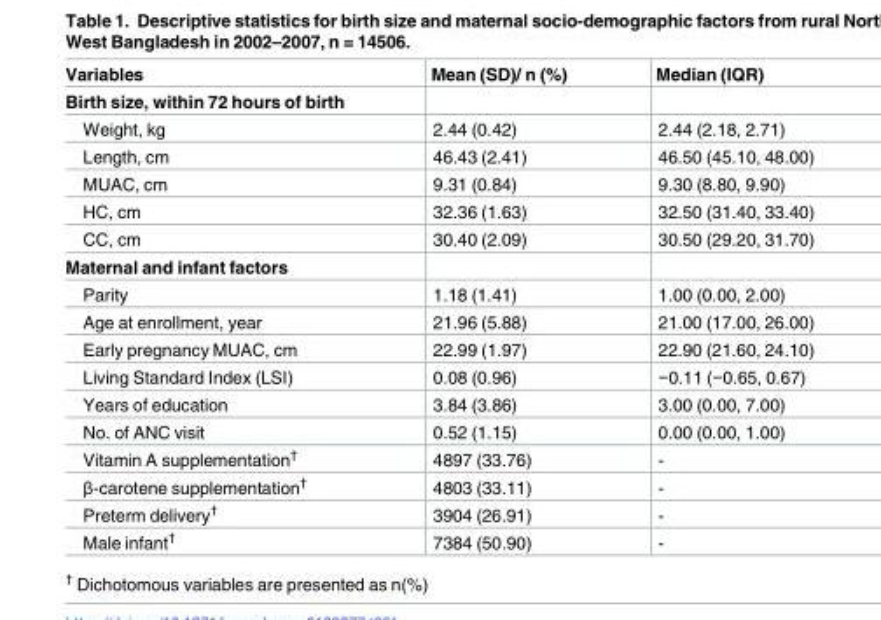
<table><thead><tr><td>Variables</td><td>Mean (SD)/ n (%)</td><td>Median (IQR)</td></tr></thead><tbody><tr><td colspan="3">Birth size, within 72 hours of birth</td></tr><tr><td>Weight, kg</td><td>2.44 (0.42)</td><td>2.44 (2.18, 2.71)</td></tr><tr><td>Length, cm</td><td>46.43 (2.41)</td><td>46.50 (45.10, 48.00)</td></tr><tr><td>MUAC, cm</td><td>9.31 (0.84)</td><td>9.30 (8.80, 9.90)</td></tr><tr><td>HC, cm</td><td>32.36 (1.63)</td><td>32.50 (31.40, 33.40)</td></tr><tr><td>CC, cm</td><td>30.40 (2.09)</td><td>30.50 (29.20, 31.70)</td></tr><tr><td colspan="3">Maternal and infant factors</td></tr><tr><td>Parity</td><td>1.18 (1.41)</td><td>1.00 (0.00, 2.00)</td></tr><tr><td>Age at enrollment, year</td><td>21.96 (5.88)</td><td>21.00 (17.00, 26.00)</td></tr><tr><td>Early pregnancy MUAC, cm</td><td>22.99 (1.97)</td><td>22.90 (21.60, 24.10)</td></tr><tr><td>Living Standard Index (LSI)</td><td>0.08 (0.96)</td><td>−0.11 (−0.65, 0.67)</td></tr><tr><td>Years of education</td><td>3.84 (3.86)</td><td>3.00 (0.00, 7.00)</td></tr><tr><td>No. of ANC visit</td><td>0.52 (1.15)</td><td>0.00 (0.00, 1.00)</td></tr><tr><td>Vitamin A supplementation<sup>†</sup></td><td>4897 (33.76)</td><td>-</td></tr><tr><td>β-carotene supplementation<sup>†</sup></td><td>4803 (33.11)</td><td>-</td></tr><tr><td>Preterm delivery<sup>†</sup></td><td>3904 (26.91)</td><td>-</td></tr><tr><td>Male infant<sup>†</sup></td><td>7384 (50.90)</td><td>-</td></tr></tbody></table>